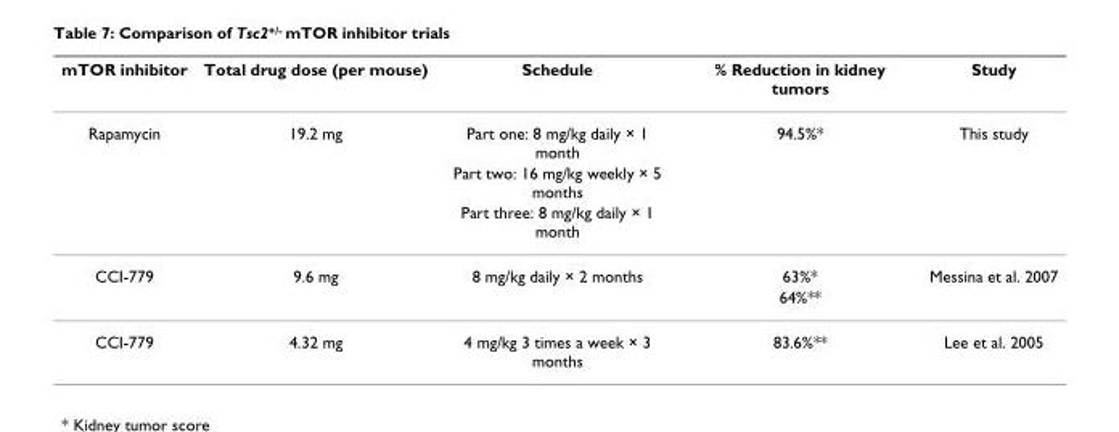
<table><thead><tr><td>mTOR inhibitor</td><td>Total drug dose (per mouse)</td><td>Schedule</td><td>% Reduction in kidney tumors</td><td>Study</td></tr></thead><tbody><tr><td rowspan="3">Rapamycin</td><td>19.2 mg</td><td>Part one: 8 mg/kg daily × 1 month</td><td>94.5%*</td><td>This study</td></tr><tr><td></td><td>Part two: 16 mg/kg weekly × 5 months</td><td></td><td></td></tr><tr><td></td><td>Part three: 8 mg/kg daily × 1 month</td><td></td><td></td></tr><tr><td rowspan="2">CCI-779</td><td>9.6 mg</td><td>8 mg/kg daily × 2 months</td><td>63%*</td><td>Messina et al. 2007</td></tr><tr><td></td><td></td><td>64%**</td><td></td></tr><tr><td>CCI-779</td><td>4.32 mg</td><td>4 mg/kg 3 times a week × 3 months</td><td>83.6%**</td><td>Lee et al. 2005</td></tr></tbody></table>